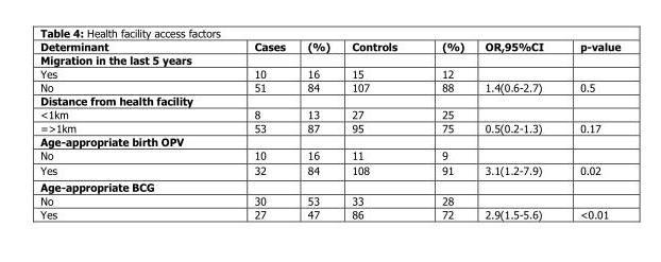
<table><thead><tr><td>Determinant</td><td>Cases</td><td>(%)</td><td>Controls</td><td>(%)</td><td>OR,95%CI</td><td>p-value</td></tr></thead><tbody><tr><td colspan="7">Migration in the last 5 years</td></tr><tr><td>Yes</td><td>10</td><td>16</td><td>15</td><td>12</td><td></td><td></td></tr><tr><td>No</td><td>51</td><td>84</td><td>107</td><td>88</td><td>1.4(0.6-2.7)</td><td>0.5</td></tr><tr><td colspan="7">Distance from health facility</td></tr><tr><td>&lt;1km</td><td>8</td><td>13</td><td>27</td><td>25</td><td></td><td></td></tr><tr><td>=&gt;1km</td><td>53</td><td>87</td><td>95</td><td>75</td><td>0.5(0.2-1.3)</td><td>0.17</td></tr><tr><td colspan="7">Age-appropriate birth OPV</td></tr><tr><td>No</td><td>10</td><td>16</td><td>11</td><td>9</td><td></td><td></td></tr><tr><td>Yes</td><td>32</td><td>84</td><td>108</td><td>91</td><td>3.1(1.2-7.9)</td><td>0.02</td></tr><tr><td colspan="7">Age-appropriate BCG</td></tr><tr><td>No</td><td>30</td><td>53</td><td>33</td><td>28</td><td></td><td></td></tr><tr><td>Yes</td><td>27</td><td>47</td><td>86</td><td>72</td><td>2.9(1.5-5.6)</td><td>&lt;0.01</td></tr></tbody></table>